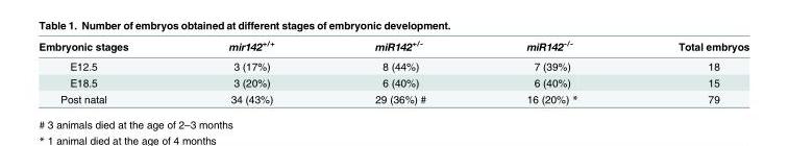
<table><thead><tr><td>Embryonic stages</td><td>mir142<sup>+/+</sup></td><td>miR142<sup>+/-</sup></td><td>miR142<sup>-/-</sup></td><td>Total embryos</td></tr></thead><tbody><tr><td>E12.5</td><td>3 (17%)</td><td>8 (44%)</td><td>7 (39%)</td><td>18</td></tr><tr><td>E18.5</td><td>3 (20%)</td><td>6 (40%)</td><td>6 (40%)</td><td>15</td></tr><tr><td>Post natal</td><td>34 (43%)</td><td>29 (36%) #</td><td>16 (20%) *</td><td>79</td></tr></tbody></table>